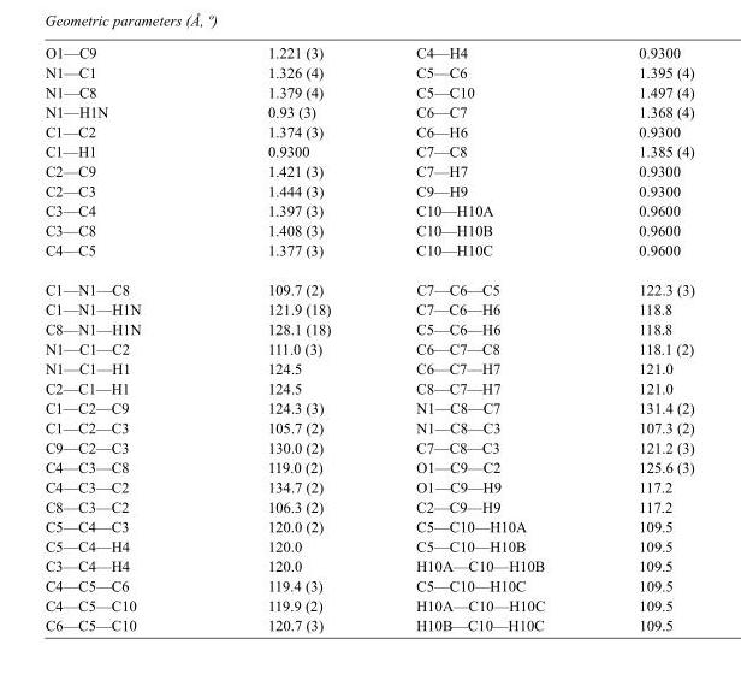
<table><tbody><tr><td>O1—C9</td><td>1.221 (3)</td><td>C4—H4</td><td>0.9300</td></tr><tr><td>N1—C1</td><td>1.326 (4)</td><td>C5—C6</td><td>1.395 (4)</td></tr><tr><td>N1—C8</td><td>1.379 (4)</td><td>C5—C10</td><td>1.497 (4)</td></tr><tr><td>N1—H1N</td><td>0.93 (3)</td><td>C6—C7</td><td>1.368 (4)</td></tr><tr><td>C1—C2</td><td>1.374 (3)</td><td>C6—H6</td><td>0.9300</td></tr><tr><td>C1—H1</td><td>0.9300</td><td>C7—C8</td><td>1.385 (4)</td></tr><tr><td>C2—C9</td><td>1.421 (3)</td><td>C7—H7</td><td>0.9300</td></tr><tr><td>C2—C3</td><td>1.444 (3)</td><td>C9—H9</td><td>0.9300</td></tr><tr><td>C3—C4</td><td>1.397 (3)</td><td>C10—H10A</td><td>0.9600</td></tr><tr><td>C3—C8</td><td>1.408 (3)</td><td>C10—H10B</td><td>0.9600</td></tr><tr><td>C4—C5</td><td>1.377 (3)</td><td>C10—H10C</td><td>0.9600</td></tr><tr><td>C1—N1—C8</td><td>109.7 (2)</td><td>C7—C6—C5</td><td>122.3 (3)</td></tr><tr><td>C1—N1—H1N</td><td>121.9 (18)</td><td>C7—C6—H6</td><td>118.8</td></tr><tr><td>C8—N1—H1N</td><td>128.1 (18)</td><td>C5—C6—H6</td><td>118.8</td></tr><tr><td>N1—C1—C2</td><td>111.0 (3)</td><td>C6—C7—C8</td><td>118.1 (2)</td></tr><tr><td>N1—C1—H1</td><td>124.5</td><td>C6—C7—H7</td><td>121.0</td></tr><tr><td>C2—C1—H1</td><td>124.5</td><td>C8—C7—H7</td><td>121.0</td></tr><tr><td>C1—C2—C9</td><td>124.3 (3)</td><td>N1—C8—C7</td><td>131.4 (2)</td></tr><tr><td>C1—C2—C3</td><td>105.7 (2)</td><td>N1—C8—C3</td><td>107.3 (2)</td></tr><tr><td>C9—C2—C3</td><td>130.0 (2)</td><td>C7—C8—C3</td><td>121.2 (3)</td></tr><tr><td>C4—C3—C8</td><td>119.0 (2)</td><td>O1—C9—C2</td><td>125.6 (3)</td></tr><tr><td>C4—C3—C2</td><td>134.7 (2)</td><td>O1—C9—H9</td><td>117.2</td></tr><tr><td>C8—C3—C2</td><td>106.3 (2)</td><td>C2—C9—H9</td><td>117.2</td></tr><tr><td>C5—C4—C3</td><td>120.0 (2)</td><td>C5—C10—H10A</td><td>109.5</td></tr><tr><td>C5—C4—H4</td><td>120.0</td><td>C5—C10—H10B</td><td>109.5</td></tr><tr><td>C3—C4—H4</td><td>120.0</td><td>H10A—C10—H10B</td><td>109.5</td></tr><tr><td>C4—C5—C6</td><td>119.4 (3)</td><td>C5—C10—H10C</td><td>109.5</td></tr><tr><td>C4—C5—C10</td><td>119.9 (2)</td><td>H10A—C10—H10C</td><td>109.5</td></tr><tr><td>C6—C5—C10</td><td>120.7 (3)</td><td>H10B—C10—H10C</td><td>109.5</td></tr></tbody></table>